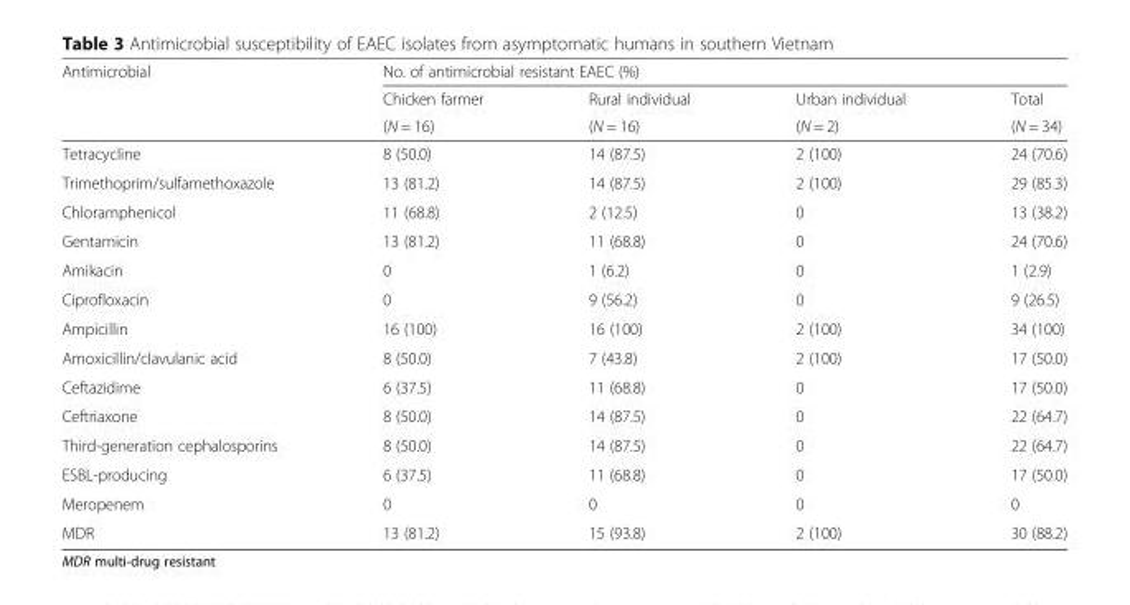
<table><thead><tr><td rowspan="3">Antimicrobial</td><td colspan="4">No. of antimicrobial resistant EAEC (%)</td></tr><tr><td rowspan="2">Chicken farmer (N = 16)</td><td rowspan="2">Rural individual (N = 16)</td><td rowspan="2">Urban individual (N = 2)</td><td rowspan="2">Total (N = 34)</td></tr><tr></tr></thead><tbody><tr><td>Tetracycline</td><td>8 (50.0)</td><td>14 (87.5)</td><td>2 (100)</td><td>24 (70.6)</td></tr><tr><td>Trimethoprim/sulfamethoxazole</td><td>13 (81.2)</td><td>14 (87.5)</td><td>2 (100)</td><td>29 (85.3)</td></tr><tr><td>Chloramphenicol</td><td>11 (68.8)</td><td>2 (12.5)</td><td>0</td><td>13 (38.2)</td></tr><tr><td>Gentamicin</td><td>13 (81.2)</td><td>11 (68.8)</td><td>0</td><td>24 (70.6)</td></tr><tr><td>Amikacin</td><td>0</td><td>1 (6.2)</td><td>0</td><td>1 (2.9)</td></tr><tr><td>Ciprofloxacin</td><td>0</td><td>9 (56.2)</td><td>0</td><td>9 (26.5)</td></tr><tr><td>Ampicillin</td><td>16 (100)</td><td>16 (100)</td><td>2 (100)</td><td>34 (100)</td></tr><tr><td>Amoxicillin/clavulanic acid</td><td>8 (50.0)</td><td>7 (43.8)</td><td>2 (100)</td><td>17 (50.0)</td></tr><tr><td>Ceftazidime</td><td>6 (37.5)</td><td>11 (68.8)</td><td>0</td><td>17 (50.0)</td></tr><tr><td>Ceftriaxone</td><td>8 (50.0)</td><td>14 (87.5)</td><td>0</td><td>22 (64.7)</td></tr><tr><td>Third-generation cephalosporins</td><td>8 (50.0)</td><td>14 (87.5)</td><td>0</td><td>22 (64.7)</td></tr><tr><td>ESBL-producing</td><td>6 (37.5)</td><td>11 (68.8)</td><td>0</td><td>17 (50.0)</td></tr><tr><td>Meropenem</td><td>0</td><td>0</td><td>0</td><td>0</td></tr><tr><td>MDR</td><td>13 (81.2)</td><td>15 (93.8)</td><td>2 (100)</td><td>30 (88.2)</td></tr></tbody></table>